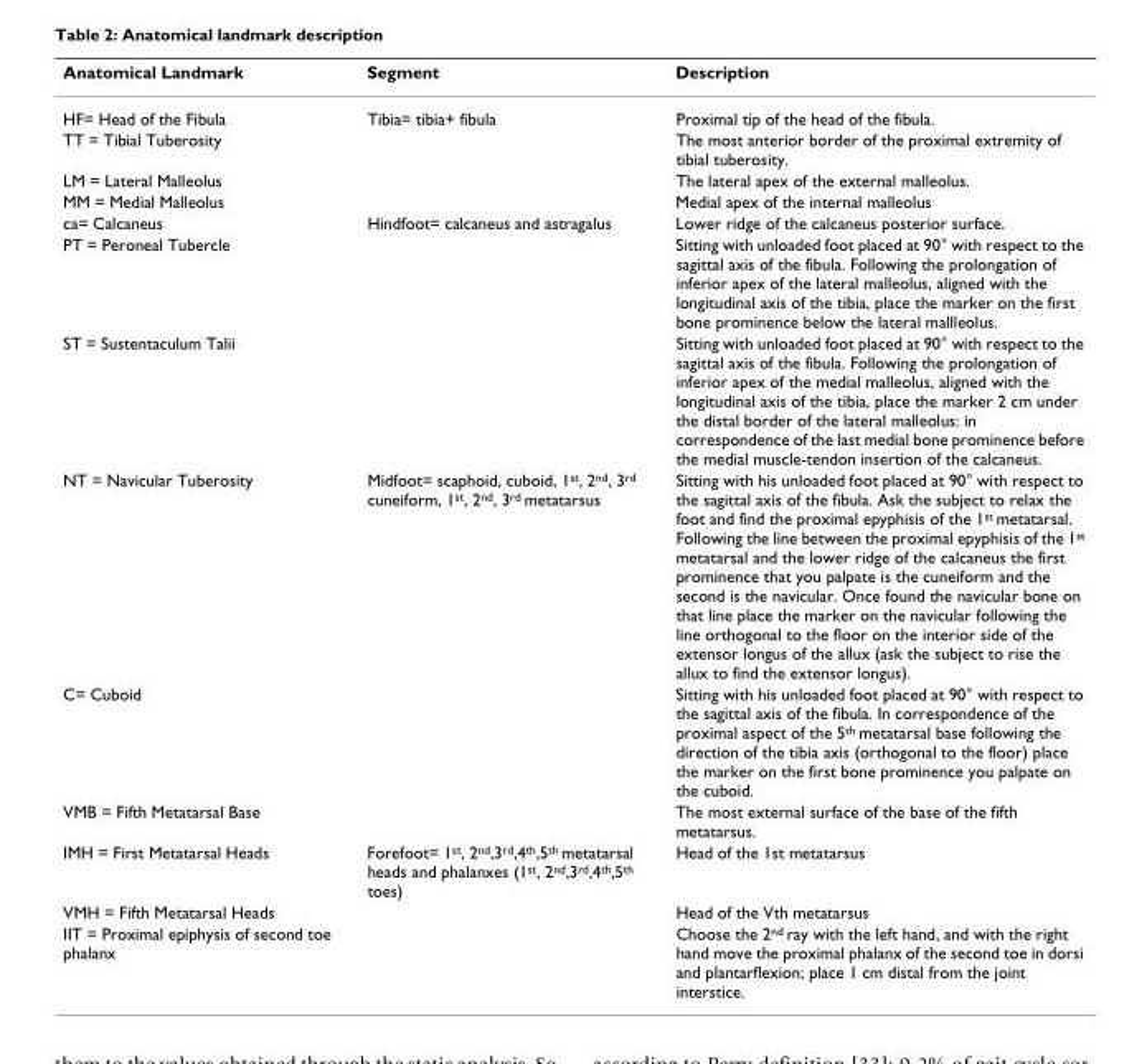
<table><thead><tr><td>Anatomical Landmark</td><td>Segment</td><td>Description</td></tr></thead><tbody><tr><td>HF= Head of the Fibula</td><td>Tibia= tibia+ fibula</td><td>Proximal tip of the head of the fibula.</td></tr><tr><td>TT = Tibial Tuberosity</td><td></td><td>The most anterior border of the proximal extremity of tibial tuberosity.</td></tr><tr><td>LM = Lateral Malleolus</td><td></td><td>The lateral apex of the external malleolus.</td></tr><tr><td>MM = Medial Malleolus</td><td></td><td>Medial apex of the internal malleolus</td></tr><tr><td>ca= Calcaneus</td><td>Hindfoot= calcaneus and astragalus</td><td>Lower ridge of the calcaneus posterior surface.</td></tr><tr><td>PT = Peroneal Tubercle</td><td></td><td>Sitting with unloaded foot placed at 90° with respect to the sagittal axis of the fibula. Following the prolongation of inferior apex of the lateral malleolus, aligned with the longitudinal axis of the tibia, place the marker on the first bone prominence below the lateral mallleolus.</td></tr><tr><td>ST = Sustentaculum Talii</td><td></td><td>Sitting with unloaded foot placed at 90° with respect to the sagittal axis of the fibula. Following the prolongation of inferior apex of the medial malleolus, aligned with the longitudinal axis of the tibia, place the marker 2 cm under the distal border of the lateral malleolus: in correspondence of the last medial bone prominence before the medial muscle-tendon insertion of the calcaneus.</td></tr><tr><td>NT = Navicular Tuberosity</td><td>Midfoot= scaphoid, cuboid, 1<sup>st</sup>, 2<sup>nd</sup>, 3<sup>rd</sup> cuneiform, 1<sup>st</sup>, 2<sup>nd</sup>, 3<sup>rd</sup> metatarsus</td><td>Sitting with his unloaded foot placed at 90° with respect to the sagittal axis of the fibula. Ask the subject to relax the foot and find the proximal epyphisis of the 1<sup>st</sup> metatarsal. Following the line between the proximal epyphisis of the 1<sup>st</sup> metatarsal and the lower ridge of the calcaneus the first prominence that you palpate is the cuneiform and the second is the navicular. Once found the navicular bone on that line place the marker on the navicular following the line orthogonal to the floor on the interior side of the extensor longus of the allux (ask the subject to rise the allux to find the extensor longus).</td></tr><tr><td>C= Cuboid</td><td></td><td>Sitting with his unloaded foot placed at 90° with respect to the sagittal axis of the fibula. In correspondence of the proximal aspect of the 5<sup>th</sup> metatarsal base following the direction of the tibia axis (orthogonal to the floor) place the marker on the first bone prominence you palpate on the cuboid.</td></tr><tr><td>VMB = Fifth Metatarsal Base</td><td></td><td>The most external surface of the base of the fifth metatarsus.</td></tr><tr><td>IMH = First Metatarsal Heads</td><td>Forefoot= 1<sup>st</sup>, 2<sup>nd</sup>,3<sup>rd</sup>,4<sup>th</sup>,5<sup>th</sup> metatarsal heads and phalanxes (1<sup>st</sup>, 2<sup>nd</sup>,3<sup>rd</sup>,4<sup>th</sup>,5<sup>th</sup> toes)</td><td>Head of the 1st metatarsus</td></tr><tr><td>VMH = Fifth Metatarsal Heads</td><td></td><td>Head of the Vth metatarsus</td></tr><tr><td>IIT = Proximal epiphysis of second toe phalanx</td><td></td><td>Choose the 2<sup>nd</sup> ray with the left hand, and with the right hand move the proximal phalanx of the second toe in dorsi and plantarflexion; place 1 cm distal from the joint interstice.</td></tr></tbody></table>